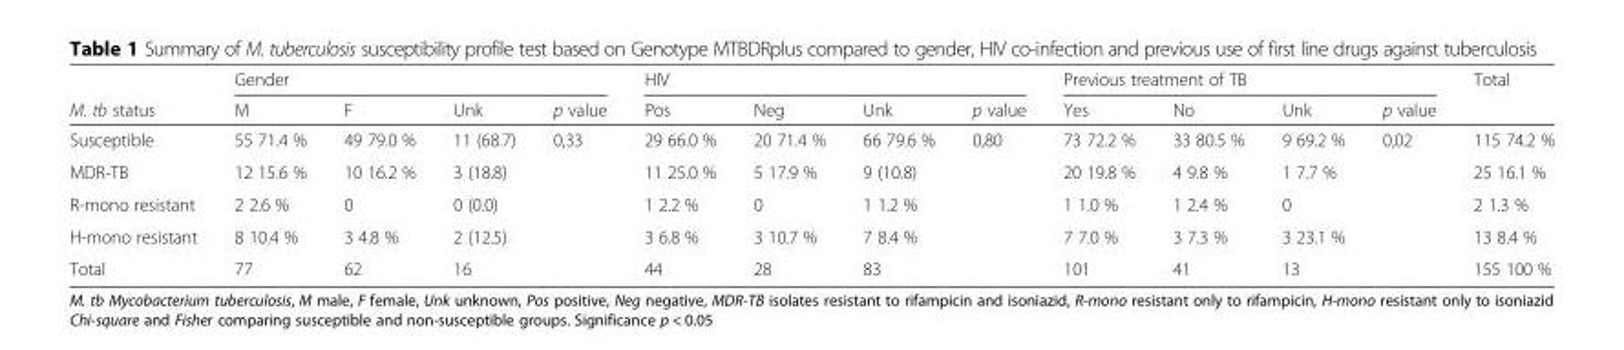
<table><thead><tr><td rowspan="2">M. tb status</td><td colspan="4">Gender</td><td colspan="4">HIV</td><td colspan="4">Previous treatment of TB</td><td rowspan="2">Total</td></tr><tr><td>M</td><td>F</td><td>Unk</td><td>p value</td><td>Pos</td><td>Neg</td><td>Unk</td><td>p value</td><td>Yes</td><td>No</td><td>Unk</td><td>p value</td></tr></thead><tbody><tr><td>Susceptible</td><td>55 71.4 %</td><td>49 79.0 %</td><td>11 (68.7)</td><td rowspan="4">0,33</td><td>29 66.0 %</td><td>20 71.4 %</td><td>66 79.6 %</td><td rowspan="4">0,80</td><td>73 72.2 %</td><td>33 80.5 %</td><td>9 69.2 %</td><td rowspan="4">0,02</td><td>115 74.2 %</td></tr><tr><td>MDR-TB</td><td>12 15.6 %</td><td>10 16.2 %</td><td>3 (18.8)</td><td>11 25.0 %</td><td>5 17.9 %</td><td>9 (10.8)</td><td>20 19.8 %</td><td>4 9.8 %</td><td>1 7.7 %</td><td>25 16.1 %</td></tr><tr><td>R-mono resistant</td><td>2 2.6 %</td><td>0</td><td>0 (0.0)</td><td>1 2.2 %</td><td>0</td><td>1 1.2 %</td><td>1 1.0 %</td><td>1 2.4 %</td><td>0</td><td>2 1.3 %</td></tr><tr><td>H-mono resistant</td><td>8 10.4 %</td><td>3 4.8 %</td><td>2 (12.5)</td><td>3 6.8 %</td><td>3 10.7 %</td><td>7 8.4 %</td><td>7 7.0 %</td><td>3 7.3 %</td><td>3 23.1 %</td><td>13 8.4 %</td></tr><tr><td>Total</td><td>77</td><td>62</td><td>16</td><td></td><td>44</td><td>28</td><td>83</td><td></td><td>101</td><td>41</td><td>13</td><td></td><td>155 100 %</td></tr></tbody></table>